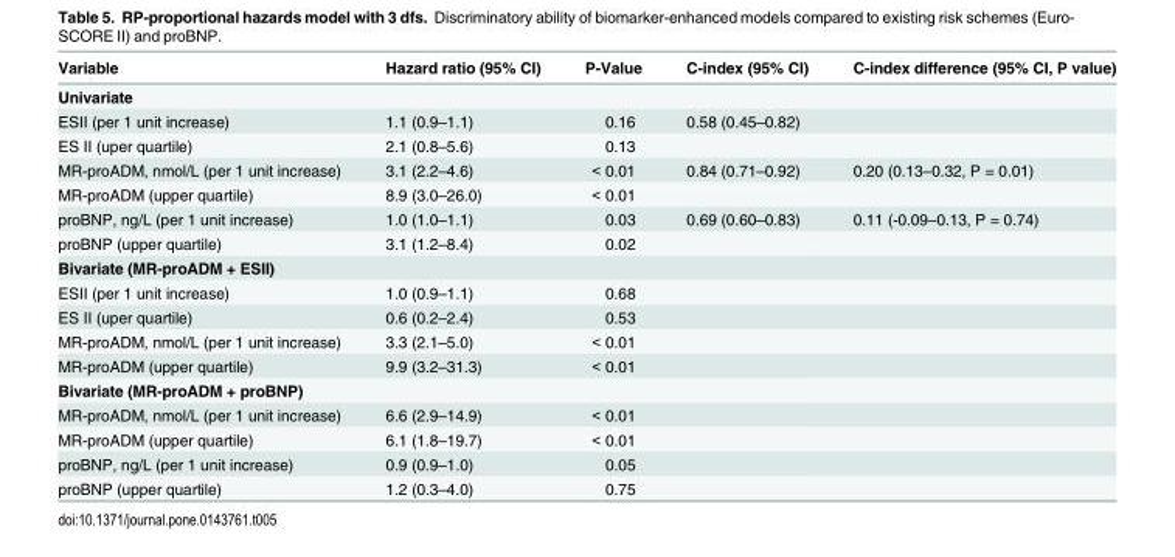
<table><thead><tr><td>Variable</td><td>Hazard ratio (95% CI)</td><td>P-Value</td><td>C-index (95% CI)</td><td>C-index difference (95% CI, P value)</td></tr></thead><tbody><tr><td colspan="5">Univariate</td></tr><tr><td>ESII (per 1 unit increase)</td><td>1.1 (0.9–1.1)</td><td>0.16</td><td>0.58 (0.45–0.82)</td><td></td></tr><tr><td>ES II (uper quartile)</td><td>2.1 (0.8–5.6)</td><td>0.13</td><td></td><td></td></tr><tr><td>MR-proADM, nmol/L (per 1 unit increase)</td><td>3.1 (2.2–4.6)</td><td>&lt; 0.01</td><td>0.84 (0.71–0.92)</td><td>0.20 (0.13–0.32, P = 0.01)</td></tr><tr><td>MR-proADM (upper quartile)</td><td>8.9 (3.0–26.0)</td><td>&lt; 0.01</td><td></td><td></td></tr><tr><td>proBNP, ng/L (per 1 unit increase)</td><td>1.0 (1.0–1.1)</td><td>0.03</td><td>0.69 (0.60–0.83)</td><td>0.11 (-0.09–0.13, P = 0.74)</td></tr><tr><td>proBNP (upper quartile)</td><td>3.1 (1.2–8.4)</td><td>0.02</td><td></td><td></td></tr><tr><td colspan="5">Bivariate (MR-proADM + ESII)</td></tr><tr><td>ESII (per 1 unit increase)</td><td>1.0 (0.9–1.1)</td><td>0.68</td><td></td><td></td></tr><tr><td>ES II (uper quartile)</td><td>0.6 (0.2–2.4)</td><td>0.53</td><td></td><td></td></tr><tr><td>MR-proADM, nmol/L (per 1 unit increase)</td><td>3.3 (2.1–5.0)</td><td>&lt; 0.01</td><td></td><td></td></tr><tr><td>MR-proADM (upper quartile)</td><td>9.9 (3.2–31.3)</td><td>&lt; 0.01</td><td></td><td></td></tr><tr><td colspan="5">Bivariate (MR-proADM + proBNP)</td></tr><tr><td>MR-proADM, nmol/L (per 1 unit increase)</td><td>6.6 (2.9–14.9)</td><td>&lt; 0.01</td><td></td><td></td></tr><tr><td>MR-proADM (upper quartile)</td><td>6.1 (1.8–19.7)</td><td>&lt; 0.01</td><td></td><td></td></tr><tr><td>proBNP, ng/L (per 1 unit increase)</td><td>0.9 (0.9–1.0)</td><td>0.05</td><td></td><td></td></tr><tr><td>proBNP (upper quartile)</td><td>1.2 (0.3–4.0)</td><td>0.75</td><td></td><td></td></tr></tbody></table>